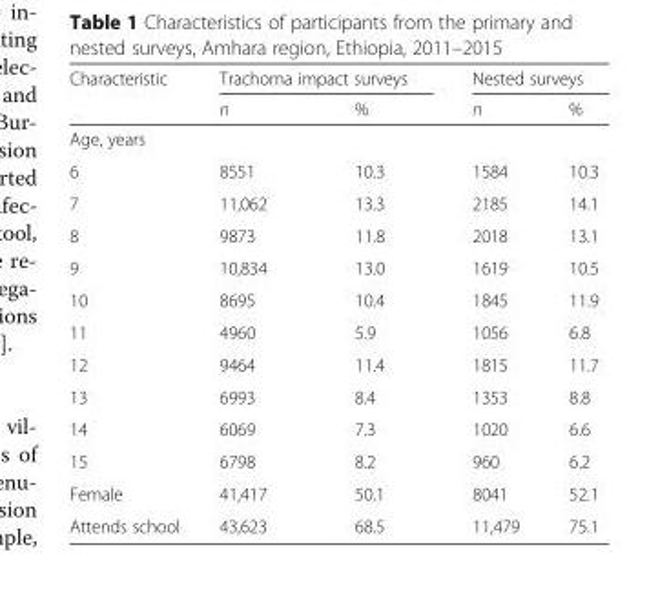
<table><thead><tr><td rowspan="2">Characteristic</td><td colspan="2">Trachoma impact surveys</td><td colspan="2">Nested surveys</td></tr><tr><td>n</td><td>%</td><td>n</td><td>%</td></tr></thead><tbody><tr><td colspan="5">Age, years</td></tr><tr><td>6</td><td>8551</td><td>10.3</td><td>1584</td><td>10.3</td></tr><tr><td>7</td><td>11,062</td><td>13.3</td><td>2185</td><td>14.1</td></tr><tr><td>8</td><td>9873</td><td>11.8</td><td>2018</td><td>13.1</td></tr><tr><td>9</td><td>10,834</td><td>13.0</td><td>1619</td><td>10.5</td></tr><tr><td>10</td><td>8695</td><td>10.4</td><td>1845</td><td>11.9</td></tr><tr><td>11</td><td>4960</td><td>5.9</td><td>1056</td><td>6.8</td></tr><tr><td>12</td><td>9464</td><td>11.4</td><td>1815</td><td>11.7</td></tr><tr><td>13</td><td>6993</td><td>8.4</td><td>1353</td><td>8.8</td></tr><tr><td>14</td><td>6069</td><td>7.3</td><td>1020</td><td>6.6</td></tr><tr><td>15</td><td>6798</td><td>8.2</td><td>960</td><td>6.2</td></tr><tr><td>Female</td><td>41,417</td><td>50.1</td><td>8041</td><td>52.1</td></tr><tr><td>Attends school</td><td>43,623</td><td>68.5</td><td>11,479</td><td>75.1</td></tr></tbody></table>